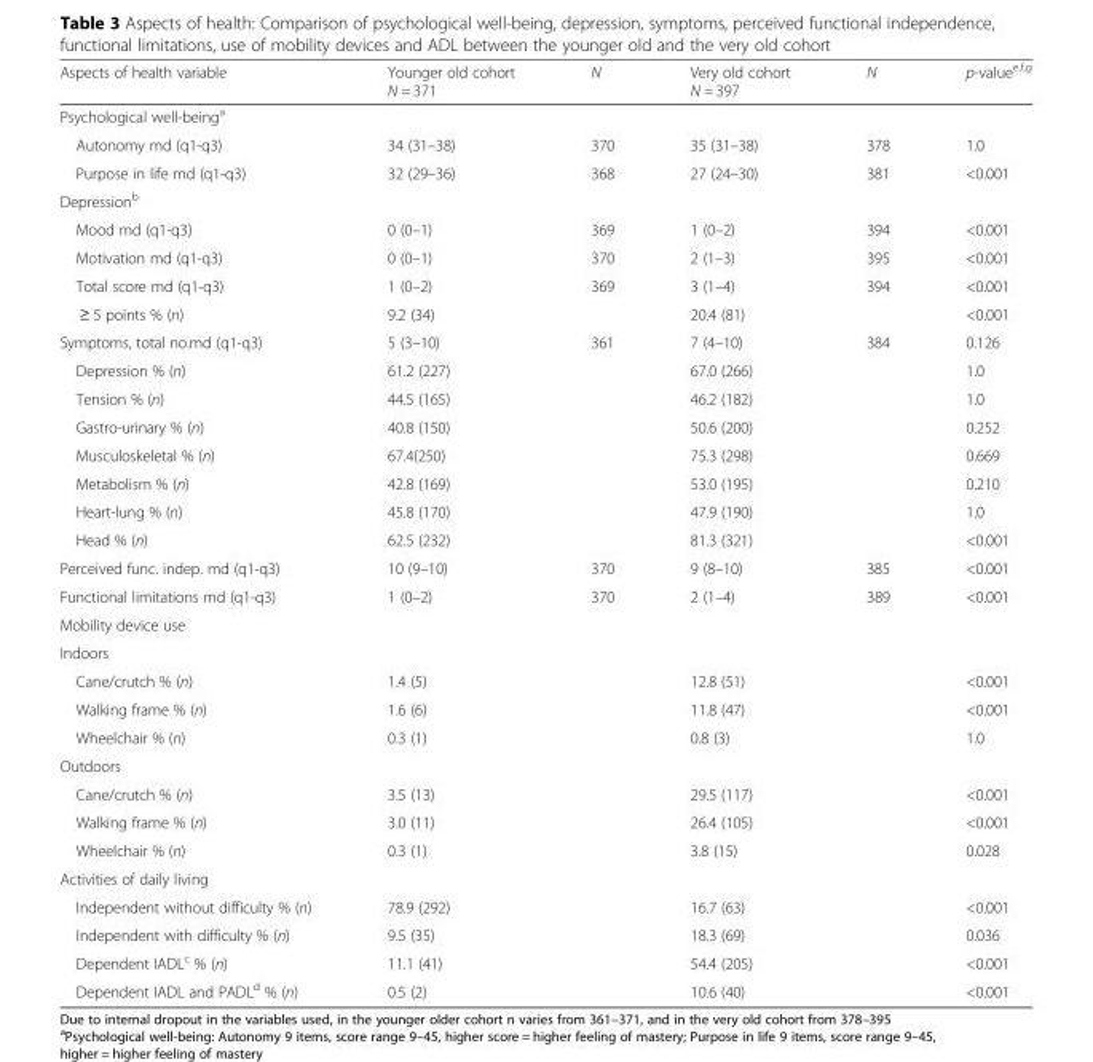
<table><thead><tr><td>Aspects of health variable</td><td>Younger old cohort N = 371</td><td>N</td><td>Very old cohort N = 397</td><td>N</td><td>p-value<sup>e,f,g</sup></td></tr></thead><tbody><tr><td colspan="6">Psychological well-being<sup>a</sup></td></tr><tr><td>Autonomy md (q1-q3)</td><td>34 (31–38)</td><td>370</td><td>35 (31–38)</td><td>378</td><td>1.0</td></tr><tr><td>Purpose in life md (q1-q3)</td><td>32 (29–36)</td><td>368</td><td>27 (24–30)</td><td>381</td><td>&lt;0.001</td></tr><tr><td colspan="6">Depression<sup>b</sup></td></tr><tr><td>Mood md (q1-q3)</td><td>0 (0–1)</td><td>369</td><td>1 (0–2)</td><td>394</td><td>&lt;0.001</td></tr><tr><td>Motivation md (q1-q3)</td><td>0 (0–1)</td><td>370</td><td>2 (1–3)</td><td>395</td><td>&lt;0.001</td></tr><tr><td>Total score md (q1-q3)</td><td>1 (0–2)</td><td>369</td><td>3 (1–4)</td><td>394</td><td>&lt;0.001</td></tr><tr><td>≥ 5 points % (n)</td><td>9.2 (34)</td><td></td><td>20.4 (81)</td><td></td><td>&lt;0.001</td></tr><tr><td>Symptoms, total no.md (q1-q3)</td><td>5 (3–10)</td><td>361</td><td>7 (4–10)</td><td>384</td><td>0.126</td></tr><tr><td>Depression % (n)</td><td>61.2 (227)</td><td></td><td>67.0 (266)</td><td></td><td>1.0</td></tr><tr><td>Tension % (n)</td><td>44.5 (165)</td><td></td><td>46.2 (182)</td><td></td><td>1.0</td></tr><tr><td>Gastro-urinary % (n)</td><td>40.8 (150)</td><td></td><td>50.6 (200)</td><td></td><td>0.252</td></tr><tr><td>Musculoskeletal % (n)</td><td>67.4(250)</td><td></td><td>75.3 (298)</td><td></td><td>0.669</td></tr><tr><td>Metabolism % (n)</td><td>42.8 (169)</td><td></td><td>53.0 (195)</td><td></td><td>0.210</td></tr><tr><td>Heart-lung % (n)</td><td>45.8 (170)</td><td></td><td>47.9 (190)</td><td></td><td>1.0</td></tr><tr><td>Head % (n)</td><td>62.5 (232)</td><td></td><td>81.3 (321)</td><td></td><td>&lt;0.001</td></tr><tr><td>Perceived func. indep. md (q1-q3)</td><td>10 (9–10)</td><td>370</td><td>9 (8–10)</td><td>385</td><td>&lt;0.001</td></tr><tr><td>Functional limitations md (q1-q3)</td><td>1 (0–2)</td><td>370</td><td>2 (1–4)</td><td>389</td><td>&lt;0.001</td></tr><tr><td colspan="6">Mobility device use</td></tr><tr><td colspan="6">Indoors</td></tr><tr><td>Cane/crutch % (n)</td><td>1.4 (5)</td><td></td><td>12.8 (51)</td><td></td><td>&lt;0.001</td></tr><tr><td>Walking frame % (n)</td><td>1.6 (6)</td><td></td><td>11.8 (47)</td><td></td><td>&lt;0.001</td></tr><tr><td>Wheelchair % (n)</td><td>0.3 (1)</td><td></td><td>0.8 (3)</td><td></td><td>1.0</td></tr><tr><td colspan="6">Outdoors</td></tr><tr><td>Cane/crutch % (n)</td><td>3.5 (13)</td><td></td><td>29.5 (117)</td><td></td><td>&lt;0.001</td></tr><tr><td>Walking frame % (n)</td><td>3.0 (11)</td><td></td><td>26.4 (105)</td><td></td><td>&lt;0.001</td></tr><tr><td>Wheelchair % (n)</td><td>0.3 (1)</td><td></td><td>3.8 (15)</td><td></td><td>0.028</td></tr><tr><td colspan="6">Activities of daily living</td></tr><tr><td>Independent without difficulty % (n)</td><td>78.9 (292)</td><td></td><td>16.7 (63)</td><td></td><td>&lt;0.001</td></tr><tr><td>Independent with difficulty % (n)</td><td>9.5 (35)</td><td></td><td>18.3 (69)</td><td></td><td>0.036</td></tr><tr><td>Dependent IADL<sup>c</sup> % (n)</td><td>11.1 (41)</td><td></td><td>54.4 (205)</td><td></td><td>&lt;0.001</td></tr><tr><td>Dependent IADL and PADL<sup>d</sup> % (n)</td><td>0.5 (2)</td><td></td><td>10.6 (40)</td><td></td><td>&lt;0.001</td></tr></tbody></table>